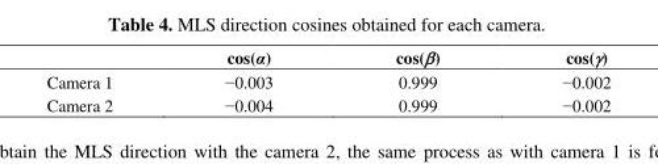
<table><thead><tr><td></td><td>cos(α)</td><td>cos(β)</td><td>cos(γ)</td></tr></thead><tbody><tr><td>Camera 1</td><td>−0.003</td><td>0.999</td><td>−0.002</td></tr><tr><td>Camera 2</td><td>−0.004</td><td>0.999</td><td>−0.002</td></tr></tbody></table>